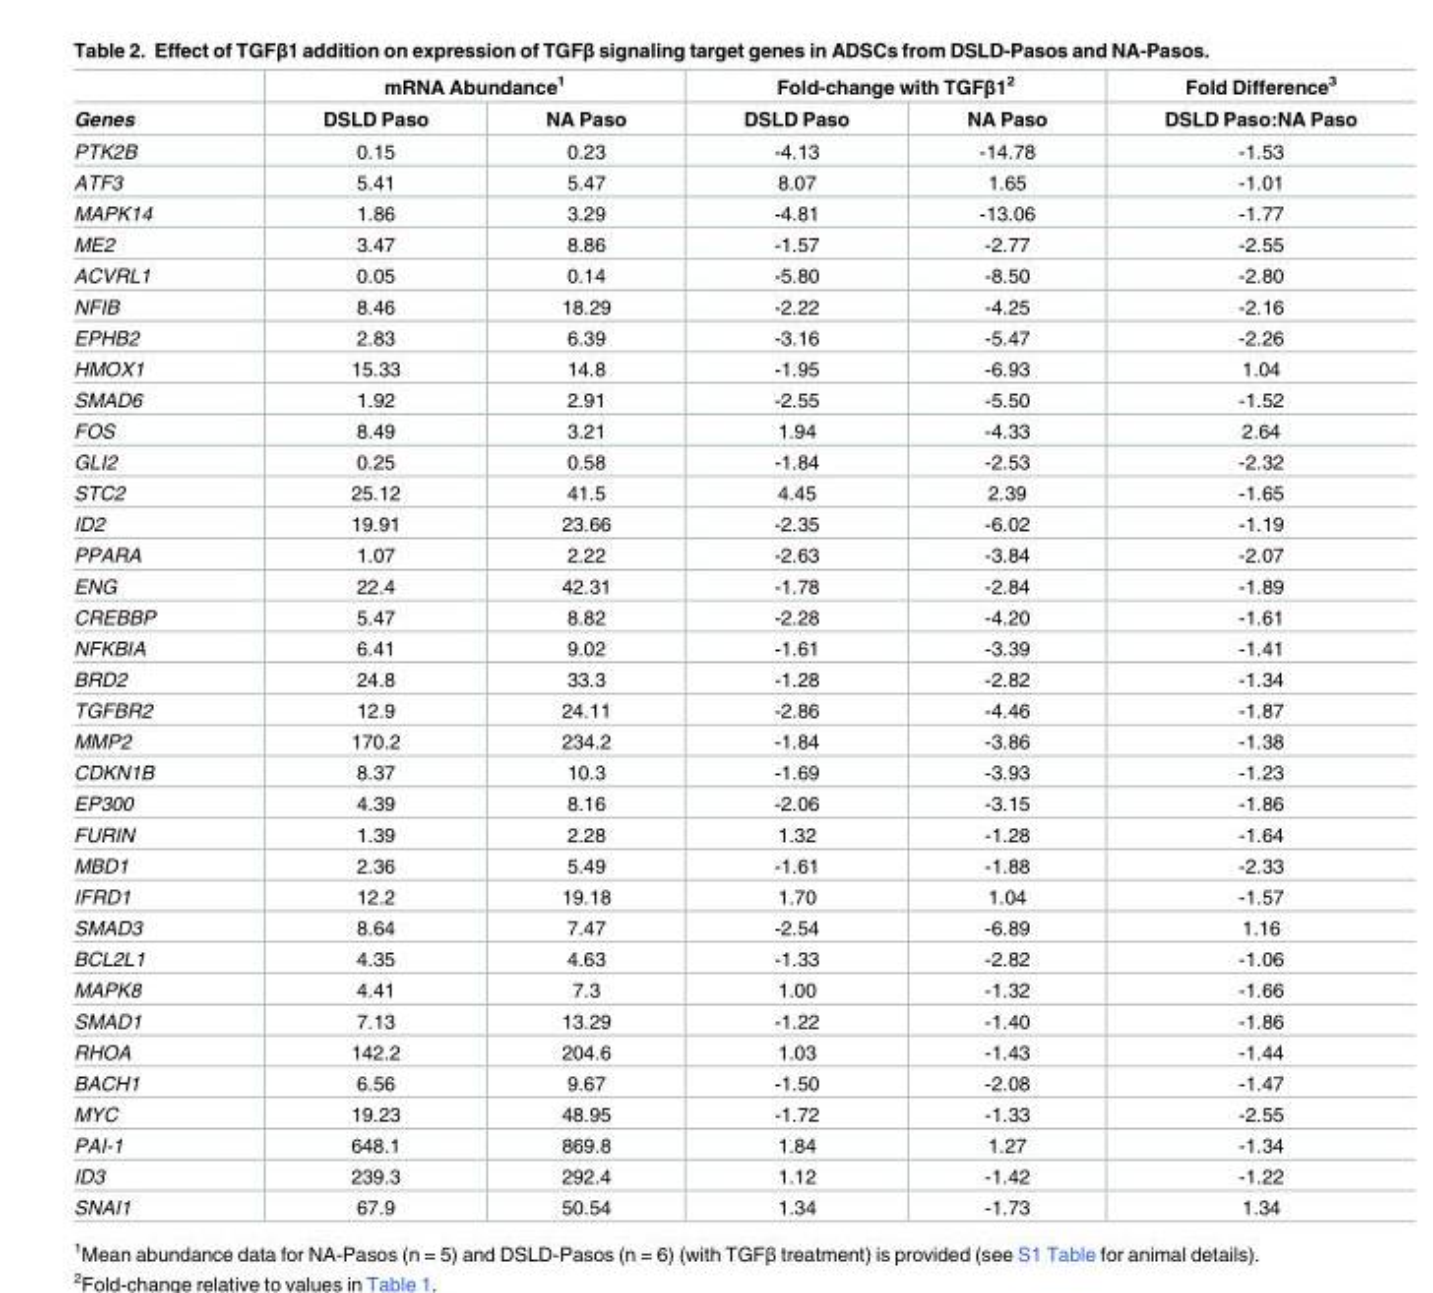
<table><thead><tr><td rowspan="2">Genes</td><td colspan="2">mRNA Abundance<sup>1</sup></td><td colspan="2">Fold-change with TGFβ1<sup>2</sup></td><td rowspan="2">Fold Difference<sup>3</sup> DSLD Paso:NA Paso</td></tr><tr><td>DSLD Paso</td><td>NA Paso</td><td>DSLD Paso</td><td>NA Paso</td></tr></thead><tbody><tr><td>PTK2B</td><td>0.15</td><td>0.23</td><td>-4.13</td><td>-14.78</td><td>-1.53</td></tr><tr><td>ATF3</td><td>5.41</td><td>5.47</td><td>8.07</td><td>1.65</td><td>-1.01</td></tr><tr><td>MAPK14</td><td>1.86</td><td>3.29</td><td>-4.81</td><td>-13.06</td><td>-1.77</td></tr><tr><td>ME2</td><td>3.47</td><td>8.86</td><td>-1.57</td><td>-2.77</td><td>-2.55</td></tr><tr><td>ACVRL1</td><td>0.05</td><td>0.14</td><td>-5.80</td><td>-8.50</td><td>-2.80</td></tr><tr><td>NFIB</td><td>8.46</td><td>18.29</td><td>-2.22</td><td>-4.25</td><td>-2.16</td></tr><tr><td>EPHB2</td><td>2.83</td><td>6.39</td><td>-3.16</td><td>-5.47</td><td>-2.26</td></tr><tr><td>HMOX1</td><td>15.33</td><td>14.8</td><td>-1.95</td><td>-6.93</td><td>1.04</td></tr><tr><td>SMAD6</td><td>1.92</td><td>2.91</td><td>-2.55</td><td>-5.50</td><td>-1.52</td></tr><tr><td>FOS</td><td>8.49</td><td>3.21</td><td>1.94</td><td>-4.33</td><td>2.64</td></tr><tr><td>GLI2</td><td>0.25</td><td>0.58</td><td>-1.84</td><td>-2.53</td><td>-2.32</td></tr><tr><td>STC2</td><td>25.12</td><td>41.5</td><td>4.45</td><td>2.39</td><td>-1.65</td></tr><tr><td>ID2</td><td>19.91</td><td>23.66</td><td>-2.35</td><td>-6.02</td><td>-1.19</td></tr><tr><td>PPARA</td><td>1.07</td><td>2.22</td><td>-2.63</td><td>-3.84</td><td>-2.07</td></tr><tr><td>ENG</td><td>22.4</td><td>42.31</td><td>-1.78</td><td>-2.84</td><td>-1.89</td></tr><tr><td>CREBBP</td><td>5.47</td><td>8.82</td><td>-2.28</td><td>-4.20</td><td>-1.61</td></tr><tr><td>NFKBIA</td><td>6.41</td><td>9.02</td><td>-1.61</td><td>-3.39</td><td>-1.41</td></tr><tr><td>BRD2</td><td>24.8</td><td>33.3</td><td>-1.28</td><td>-2.82</td><td>-1.34</td></tr><tr><td>TGFBR2</td><td>12.9</td><td>24.11</td><td>-2.86</td><td>-4.46</td><td>-1.87</td></tr><tr><td>MMP2</td><td>170.2</td><td>234.2</td><td>-1.84</td><td>-3.86</td><td>-1.38</td></tr><tr><td>CDKN1B</td><td>8.37</td><td>10.3</td><td>-1.69</td><td>-3.93</td><td>-1.23</td></tr><tr><td>EP300</td><td>4.39</td><td>8.16</td><td>-2.06</td><td>-3.15</td><td>-1.86</td></tr><tr><td>FURIN</td><td>1.39</td><td>2.28</td><td>1.32</td><td>-1.28</td><td>-1.64</td></tr><tr><td>MBD1</td><td>2.36</td><td>5.49</td><td>-1.61</td><td>-1.88</td><td>-2.33</td></tr><tr><td>IFRD1</td><td>12.2</td><td>19.18</td><td>1.70</td><td>1.04</td><td>-1.57</td></tr><tr><td>SMAD3</td><td>8.64</td><td>7.47</td><td>-2.54</td><td>-6.89</td><td>1.16</td></tr><tr><td>BCL2L1</td><td>4.35</td><td>4.63</td><td>-1.33</td><td>-2.82</td><td>-1.06</td></tr><tr><td>MAPK8</td><td>4.41</td><td>7.3</td><td>1.00</td><td>-1.32</td><td>-1.66</td></tr><tr><td>SMAD1</td><td>7.13</td><td>13.29</td><td>-1.22</td><td>-1.40</td><td>-1.86</td></tr><tr><td>RHOA</td><td>142.2</td><td>204.6</td><td>1.03</td><td>-1.43</td><td>-1.44</td></tr><tr><td>BACH1</td><td>6.56</td><td>9.67</td><td>-1.50</td><td>-2.08</td><td>-1.47</td></tr><tr><td>MYC</td><td>19.23</td><td>48.95</td><td>-1.72</td><td>-1.33</td><td>-2.55</td></tr><tr><td>PAI-1</td><td>648.1</td><td>869.8</td><td>1.84</td><td>1.27</td><td>-1.34</td></tr><tr><td>ID3</td><td>239.3</td><td>292.4</td><td>1.12</td><td>-1.42</td><td>-1.22</td></tr><tr><td>SNAI1</td><td>67.9</td><td>50.54</td><td>1.34</td><td>-1.73</td><td>1.34</td></tr></tbody></table>